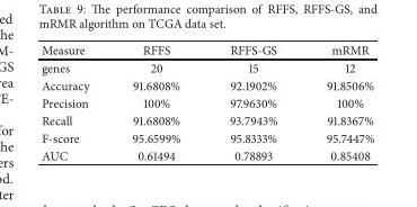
<table><thead><tr><td>Measure</td><td>RFFS</td><td>RFFS-GS</td><td>mRMR</td></tr></thead><tbody><tr><td>genes</td><td>20</td><td>15</td><td>12</td></tr><tr><td>Accuracy</td><td>91.6808%</td><td>92.1902%</td><td>91.8506%</td></tr><tr><td>Precision</td><td>100%</td><td>97.9630%</td><td>100%</td></tr><tr><td>Recall</td><td>91.6808%</td><td>93.7943%</td><td>91.8367%</td></tr><tr><td>F-score</td><td>95.6599%</td><td>95.8333%</td><td>95.7447%</td></tr><tr><td>AUC</td><td>0.61494</td><td>0.78893</td><td>0.85408</td></tr></tbody></table>